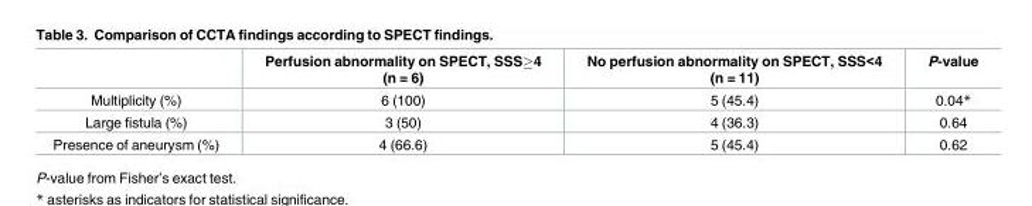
<table><thead><tr><td></td><td>Perfusion abnormality on SPECT, SSS≥4 (n = 6)</td><td>No perfusion abnormality on SPECT, SSS&lt;4 (n = 11)</td><td>P-value</td></tr></thead><tbody><tr><td>Multiplicity (%)</td><td>6 (100)</td><td>5 (45.4)</td><td>0.04*</td></tr><tr><td>Large fistula (%)</td><td>3 (50)</td><td>4 (36.3)</td><td>0.64</td></tr><tr><td>Presence of aneurysm (%)</td><td>4 (66.6)</td><td>5 (45.4)</td><td>0.62</td></tr></tbody></table>